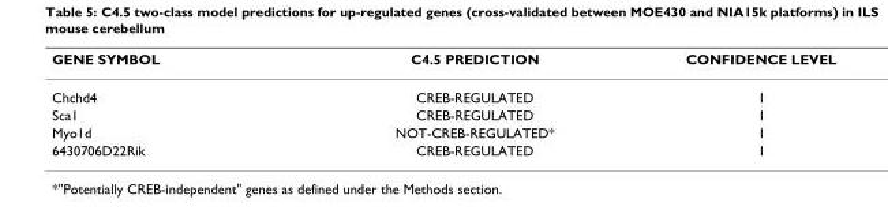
<table><thead><tr><td>GENE SYMBOL</td><td>C4.5 PREDICTION</td><td>CONFIDENCE LEVEL</td></tr></thead><tbody><tr><td>Chchd4</td><td>CREB-REGULATED</td><td>1</td></tr><tr><td>Sca1</td><td>CREB-REGULATED</td><td>1</td></tr><tr><td>Myo1d</td><td>NOT-CREB-REGULATED*</td><td>1</td></tr><tr><td>6430706D22Rik</td><td>CREB-REGULATED</td><td>1</td></tr></tbody></table>